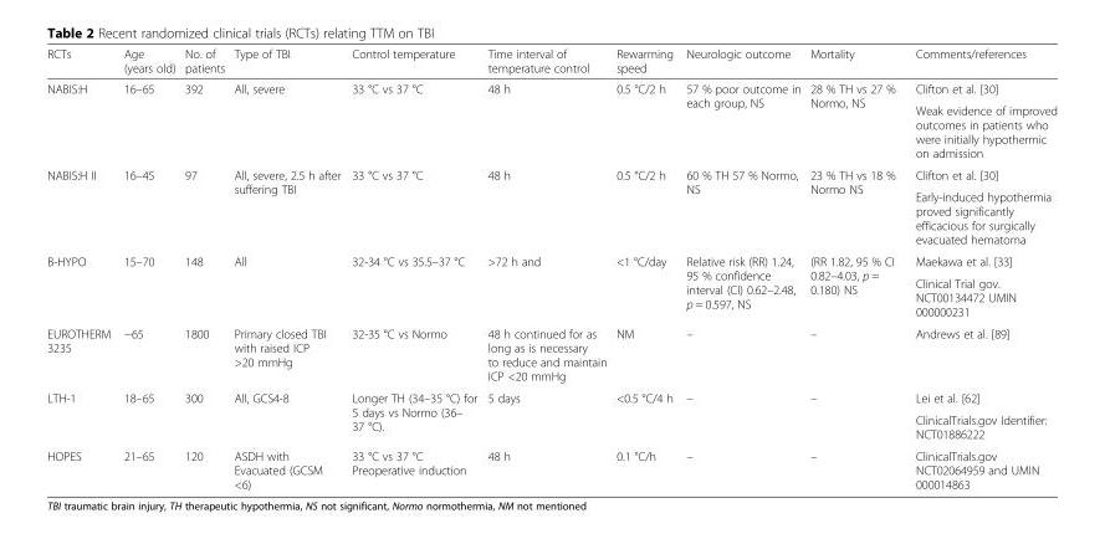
<table><thead><tr><td>RCTs</td><td>Age (years old)</td><td>No. of patients</td><td>Type of TBI</td><td>Control temperature</td><td>Time interval of temperature control</td><td>Rewarming speed</td><td>Neurologic outcome</td><td>Mortality</td><td>Comments/references</td></tr></thead><tbody><tr><td rowspan="2">NABIS:H</td><td rowspan="2">16–65</td><td rowspan="2">392</td><td rowspan="2">All, severe</td><td rowspan="2">33 °C vs 37 °C</td><td rowspan="2">48 h</td><td rowspan="2">0.5 °C/2 h</td><td rowspan="2">57 % poor outcome in each group, NS</td><td rowspan="2">28 % TH vs 27 % Normo, NS</td><td>Clifton et al. [30]</td></tr><tr><td>Weak evidence of improved outcomes in patients who were initially hypothermic on admission</td></tr><tr><td rowspan="2">NABIS:H II</td><td rowspan="2">16–45</td><td rowspan="2">97</td><td rowspan="2">All, severe, 2.5 h after suffering TBI</td><td rowspan="2">33 °C vs 37 °C</td><td rowspan="2">48 h</td><td rowspan="2">0.5 °C/2 h</td><td rowspan="2">60 % TH 57 % Normo, NS</td><td rowspan="2">23 % TH vs 18 % Normo NS</td><td>Clifton et al. [30]</td></tr><tr><td>Early-induced hypothermia proved significantly efficacious for surgically evacuated hematoma</td></tr><tr><td rowspan="2">B-HYPO</td><td rowspan="2">15–70</td><td rowspan="2">148</td><td rowspan="2">All</td><td rowspan="2">32-34 °C vs 35.5–37 °C</td><td rowspan="2">&gt;72 h and</td><td rowspan="2">&lt;1 °C/day</td><td rowspan="2">Relative risk (RR) 1.24, 95 % confidence interval (CI) 0.62–2.48, p = 0.597, NS</td><td rowspan="2">(RR 1.82, 95 % CI 0.82–4.03, p = 0.180) NS</td><td>Maekawa et al. [33]</td></tr><tr><td>Clinical Trial gov. NCT00134472 UMIN 000000231</td></tr><tr><td>EUROTHERM 3235</td><td>−65</td><td>1800</td><td>Primary closed TBI with raised ICP &gt;20 mmHg</td><td>32-35 °C vs Normo</td><td>48 h continued for as long as is necessary to reduce and maintain ICP &lt;20 mmHg</td><td>NM</td><td>–</td><td>–</td><td>Andrews et al. [89]</td></tr><tr><td rowspan="2">LTH-1</td><td rowspan="2">18–65</td><td rowspan="2">300</td><td rowspan="2">All, GCS4-8</td><td rowspan="2">Longer TH (34–35 °C) for 5 days vs Normo (36– 37 °C).</td><td rowspan="2">5 days</td><td rowspan="2">&lt;0.5 °C/4 h</td><td rowspan="2">–</td><td rowspan="2">–</td><td>Lei et al. [62]</td></tr><tr><td>ClinicalTrials.gov Identifier: NCT01886222</td></tr><tr><td>HOPES</td><td>21–65</td><td>120</td><td>ASDH with Evacuated (GCSM &lt;6)</td><td>33 °C vs 37 °C Preoperative induction</td><td>48 h</td><td>0.1 °C/h</td><td>–</td><td>–</td><td>ClinicalTrials.gov NCT02064959 and UMIN 000014863</td></tr></tbody></table>